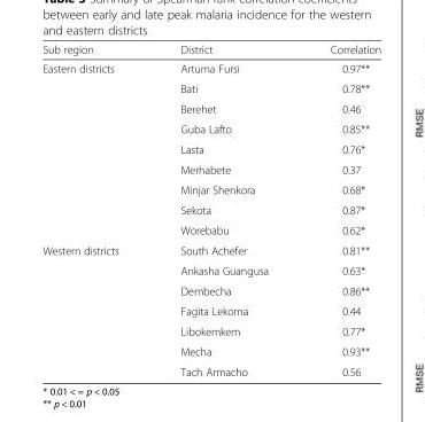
<table><thead><tr><td>Sub region</td><td>District</td><td>Correlation</td></tr></thead><tbody><tr><td rowspan="9">Eastern districts</td><td>Artuma Fursi</td><td>0.97**</td></tr><tr><td>Bati</td><td>0.78**</td></tr><tr><td>Berehet</td><td>0.46</td></tr><tr><td>Guba Lafto</td><td>0.85**</td></tr><tr><td>Lasta</td><td>0.76*</td></tr><tr><td>Merhabete</td><td>0.37</td></tr><tr><td>Minjar Shenkora</td><td>0.68*</td></tr><tr><td>Sekota</td><td>0.87*</td></tr><tr><td>Worebabu</td><td>0.62*</td></tr><tr><td rowspan="7">Western districts</td><td>South Achefer</td><td>0.81**</td></tr><tr><td>Ankasha Guangusa</td><td>0.63*</td></tr><tr><td>Dembecha</td><td>0.86**</td></tr><tr><td>Fagita Lekoma</td><td>0.44</td></tr><tr><td>Libokemkem</td><td>0.77*</td></tr><tr><td>Mecha</td><td>0.93**</td></tr><tr><td>Tach Armacho</td><td>0.56</td></tr></tbody></table>